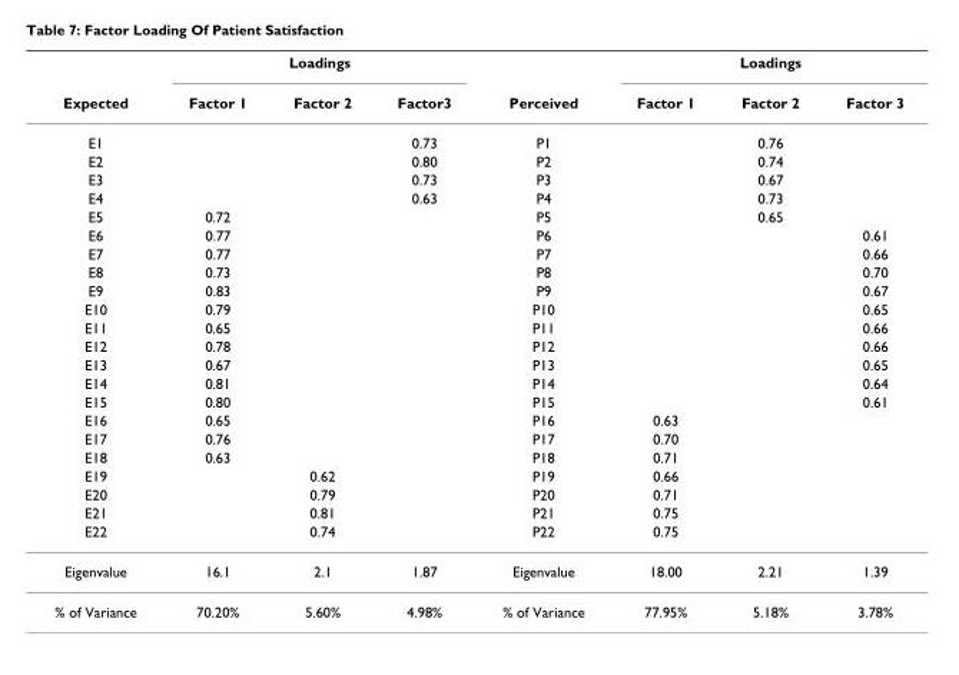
<table><thead><tr><td rowspan="2">Expected</td><td colspan="3">Loadings</td><td rowspan="2">Perceived</td><td colspan="3">Loadings</td></tr><tr><td>Factor 1</td><td>Factor 2</td><td>Factor3</td><td>Factor 1</td><td>Factor 2</td><td>Factor 3</td></tr></thead><tbody><tr><td>E1</td><td></td><td></td><td>0.73</td><td>P1</td><td></td><td>0.76</td><td></td></tr><tr><td>E2</td><td></td><td></td><td>0.80</td><td>P2</td><td></td><td>0.74</td><td></td></tr><tr><td>E3</td><td></td><td></td><td>0.73</td><td>P3</td><td></td><td>0.67</td><td></td></tr><tr><td>E4</td><td></td><td></td><td>0.63</td><td>P4</td><td></td><td>0.73</td><td></td></tr><tr><td>E5</td><td>0.72</td><td></td><td></td><td>P5</td><td></td><td>0.65</td><td></td></tr><tr><td>E6</td><td>0.77</td><td></td><td></td><td>P6</td><td></td><td></td><td>0.61</td></tr><tr><td>E7</td><td>0.77</td><td></td><td></td><td>P7</td><td></td><td></td><td>0.66</td></tr><tr><td>E8</td><td>0.73</td><td></td><td></td><td>P8</td><td></td><td></td><td>0.70</td></tr><tr><td>E9</td><td>0.83</td><td></td><td></td><td>P9</td><td></td><td></td><td>0.67</td></tr><tr><td>E10</td><td>0.79</td><td></td><td></td><td>P10</td><td></td><td></td><td>0.65</td></tr><tr><td>E11</td><td>0.65</td><td></td><td></td><td>P11</td><td></td><td></td><td>0.66</td></tr><tr><td>E12</td><td>0.78</td><td></td><td></td><td>P12</td><td></td><td></td><td>0.66</td></tr><tr><td>E13</td><td>0.67</td><td></td><td></td><td>P13</td><td></td><td></td><td>0.65</td></tr><tr><td>E14</td><td>0.81</td><td></td><td></td><td>P14</td><td></td><td></td><td>0.64</td></tr><tr><td>E15</td><td>0.80</td><td></td><td></td><td>P15</td><td></td><td></td><td>0.61</td></tr><tr><td>E16</td><td>0.65</td><td></td><td></td><td>P16</td><td>0.63</td><td></td><td></td></tr><tr><td>E17</td><td>0.76</td><td></td><td></td><td>P17</td><td>0.70</td><td></td><td></td></tr><tr><td>E18</td><td>0.63</td><td></td><td></td><td>P18</td><td>0.71</td><td></td><td></td></tr><tr><td>E19</td><td></td><td>0.62</td><td></td><td>P19</td><td>0.66</td><td></td><td></td></tr><tr><td>E20</td><td></td><td>0.79</td><td></td><td>P20</td><td>0.71</td><td></td><td></td></tr><tr><td>E21</td><td></td><td>0.81</td><td></td><td>P21</td><td>0.75</td><td></td><td></td></tr><tr><td>E22</td><td></td><td>0.74</td><td></td><td>P22</td><td>0.75</td><td></td><td></td></tr><tr><td>Eigenvalue</td><td>16.1</td><td>2.1</td><td>1.87</td><td>Eigenvalue</td><td>18.00</td><td>2.21</td><td>1.39</td></tr><tr><td>% of Variance</td><td>70.20%</td><td>5.60%</td><td>4.98%</td><td>% of Variance</td><td>77.95%</td><td>5.18%</td><td>3.78%</td></tr></tbody></table>